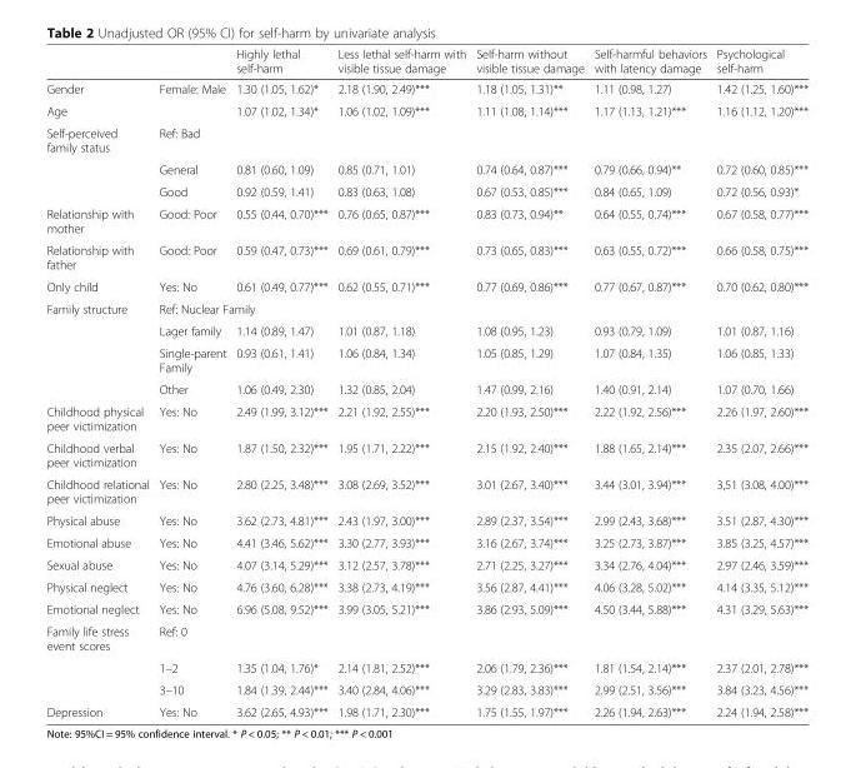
<table><thead><tr><td></td><td></td><td>Highly lethal self-harm</td><td>Less lethal self-harm with visible tissue damage</td><td>Self-harm without visible tissue damage</td><td>Self-harmful behaviors with latency damage</td><td>Psychological self-harm</td></tr></thead><tbody><tr><td>Gender</td><td>Female: Male</td><td>1.30 (1.05, 1.62)*</td><td>2.18 (1.90, 2.49)***</td><td>1.18 (1.05, 1.31)**</td><td>1.11 (0.98, 1.27)</td><td>1.42 (1.25, 1.60)***</td></tr><tr><td>Age</td><td></td><td>1.07 (1.02, 1.34)*</td><td>1.06 (1.02, 1.09)***</td><td>1.11 (1.08, 1.14)***</td><td>1.17 (1.13, 1.21)***</td><td>1.16 (1.12, 1.20)***</td></tr><tr><td rowspan="3">Self-perceived family status</td><td colspan="6">Ref: Bad</td></tr><tr><td>General</td><td>0.81 (0.60, 1.09)</td><td>0.85 (0.71, 1.01)</td><td>0.74 (0.64, 0.87)***</td><td>0.79 (0.66, 0.94)**</td><td>0.72 (0.60, 0.85)***</td></tr><tr><td>Good</td><td>0.92 (0.59, 1.41)</td><td>0.83 (0.63, 1.08)</td><td>0.67 (0.53, 0.85)***</td><td>0.84 (0.65, 1.09)</td><td>0.72 (0.56, 0.93)*</td></tr><tr><td>Relationship with mother</td><td>Good: Poor</td><td>0.55 (0.44, 0.70)***</td><td>0.76 (0.65, 0.87)***</td><td>0.83 (0.73, 0.94)**</td><td>0.64 (0.55, 0.74)***</td><td>0.67 (0.58, 0.77)***</td></tr><tr><td>Relationship with father</td><td>Good: Poor</td><td>0.59 (0.47, 0.73)***</td><td>0.69 (0.61, 0.79)***</td><td>0.73 (0.65, 0.83)***</td><td>0.63 (0.55, 0.72)***</td><td>0.66 (0.58, 0.75)***</td></tr><tr><td>Only child</td><td>Yes: No</td><td>0.61 (0.49, 0.77)***</td><td>0.62 (0.55, 0.71)***</td><td>0.77 (0.69, 0.86)***</td><td>0.77 (0.67, 0.87)***</td><td>0.70 (0.62, 0.80)***</td></tr><tr><td rowspan="4">Family structure</td><td colspan="6">Ref: Nuclear Family</td></tr><tr><td>Lager family</td><td>1.14 (0.89, 1.47)</td><td>1.01 (0.87, 1.18)</td><td>1.08 (0.95, 1.23)</td><td>0.93 (0.79, 1.09)</td><td>1.01 (0.87, 1.16)</td></tr><tr><td>Single-parent Family</td><td>0.93 (0.61, 1.41)</td><td>1.06 (0.84, 1.34)</td><td>1.05 (0.85, 1.29)</td><td>1.07 (0.84, 1.35)</td><td>1.06 (0.85, 1.33)</td></tr><tr><td>Other</td><td>1.06 (0.49, 2.30)</td><td>1.32 (0.85, 2.04)</td><td>1.47 (0.99, 2.16)</td><td>1.40 (0.91, 2.14)</td><td>1.07 (0.70, 1.66)</td></tr><tr><td>Childhood physical peer victimization</td><td>Yes: No</td><td>2.49 (1.99, 3.12)***</td><td>2.21 (1.92, 2.55)***</td><td>2.20 (1.93, 2.50)***</td><td>2.22 (1.92, 2.56)***</td><td>2.26 (1.97, 2.60)***</td></tr><tr><td>Childhood verbal peer victimization</td><td>Yes: No</td><td>1.87 (1.50, 2.32)***</td><td>1.95 (1.71, 2.22)***</td><td>2.15 (1.92, 2.40)***</td><td>1.88 (1.65, 2.14)***</td><td>2.35 (2.07, 2.66)***</td></tr><tr><td>Childhood relational peer victimization</td><td>Yes: No</td><td>2.80 (2.25, 3.48)***</td><td>3.08 (2.69, 3.52)***</td><td>3.01 (2.67, 3.40)***</td><td>3.44 (3.01, 3.94)***</td><td>3,51 (3.08, 4.00)***</td></tr><tr><td>Physical abuse</td><td>Yes: No</td><td>3.62 (2.73, 4.81)***</td><td>2.43 (1.97, 3.00)***</td><td>2.89 (2.37, 3.54)***</td><td>2.99 (2.43, 3.68)***</td><td>3.51 (2.87, 4.30)***</td></tr><tr><td>Emotional abuse</td><td>Yes: No</td><td>4.41 (3.46, 5.62)***</td><td>3.30 (2.77, 3.93)***</td><td>3.16 (2.67, 3.74)***</td><td>3.25 (2.73, 3.87)***</td><td>3.85 (3.25, 4.57)***</td></tr><tr><td>Sexual abuse</td><td>Yes: No</td><td>4.07 (3.14, 5.29)***</td><td>3.12 (2.57, 3.78)***</td><td>2.71 (2.25, 3.27)***</td><td>3.34 (2.76, 4.04)***</td><td>2.97 (2.46, 3.59)***</td></tr><tr><td>Physical neglect</td><td>Yes: No</td><td>4.76 (3.60, 6.28)***</td><td>3.38 (2.73, 4.19)***</td><td>3.56 (2.87, 4.41)***</td><td>4.06 (3.28, 5.02)***</td><td>4.14 (3.35, 5.12)***</td></tr><tr><td>Emotional neglect</td><td>Yes: No</td><td>6.96 (5.08, 9.52)***</td><td>3.99 (3.05, 5.21)***</td><td>3.86 (2.93, 5.09)***</td><td>4.50 (3.44, 5.88)***</td><td>4.31 (3.29, 5.63)***</td></tr><tr><td rowspan="3">Family life stress event scores</td><td colspan="6">Ref: 0</td></tr><tr><td>1–2</td><td>1.35 (1.04, 1.76)*</td><td>2.14 (1.81, 2.52)***</td><td>2.06 (1.79, 2.36)***</td><td>1.81 (1.54, 2.14)***</td><td>2.37 (2.01, 2.78)***</td></tr><tr><td>3–10</td><td>1.84 (1.39, 2.44)***</td><td>3.40 (2.84, 4.06)***</td><td>3.29 (2.83, 3.83)***</td><td>2.99 (2.51, 3.56)***</td><td>3.84 (3.23, 4.56)***</td></tr><tr><td>Depression</td><td>Yes: No</td><td>3.62 (2.65, 4.93)***</td><td>1.98 (1.71, 2.30)***</td><td>1.75 (1.55, 1.97)***</td><td>2.26 (1.94, 2.63)***</td><td>2.24 (1.94, 2.58)***</td></tr></tbody></table>